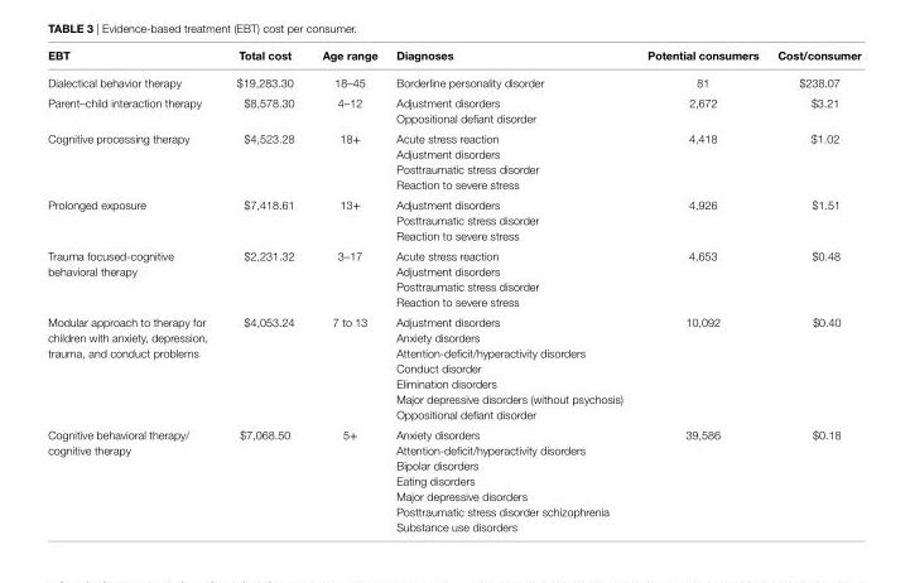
<table><thead><tr><td>eBT</td><td>Total cost</td><td>age range</td><td>Diagnoses</td><td>Potential consumers</td><td>cost/consumer</td></tr></thead><tbody><tr><td>Dialectical behavior therapy</td><td>$19,283.30</td><td>18–45</td><td>Borderline personality disorder</td><td>81</td><td>$238.07</td></tr><tr><td rowspan="2">Parent–child interaction therapy</td><td rowspan="2">$8,578.30</td><td rowspan="2">4–12</td><td>Adjustment disorders</td><td rowspan="2">2,672</td><td rowspan="2">$3.21</td></tr><tr><td>Oppositional defiant disorder</td></tr><tr><td rowspan="4">Cognitive processing therapy</td><td rowspan="4">$4,523.28</td><td rowspan="4">18+</td><td>Acute stress reaction</td><td rowspan="4">4,418</td><td rowspan="4">$1.02</td></tr><tr><td>Adjustment disorders</td></tr><tr><td>Posttraumatic stress disorder</td></tr><tr><td>Reaction to severe stress</td></tr><tr><td rowspan="3">Prolonged exposure</td><td rowspan="3">$7,418.61</td><td rowspan="3">13+</td><td>Adjustment disorders</td><td rowspan="3">4,926</td><td rowspan="3">$1.51</td></tr><tr><td>Posttraumatic stress disorder</td></tr><tr><td>Reaction to severe stress</td></tr><tr><td rowspan="4">Trauma focused-cognitive behavioral therapy</td><td rowspan="4">$2,231.32</td><td rowspan="4">3–17</td><td>Acute stress reaction</td><td rowspan="4">4,653</td><td rowspan="4">$0.48</td></tr><tr><td>Adjustment disorders</td></tr><tr><td>Posttraumatic stress disorder</td></tr><tr><td>Reaction to severe stress</td></tr><tr><td rowspan="7">Modular approach to therapy for children with anxiety, depression, trauma, and conduct problems</td><td rowspan="7">$4,053.24</td><td rowspan="7">7 to 13</td><td>Adjustment disorders</td><td rowspan="7">10,092</td><td rowspan="7">$0.40</td></tr><tr><td>Anxiety disorders</td></tr><tr><td>Attention-deficit/hyperactivity disorders</td></tr><tr><td>Conduct disorder</td></tr><tr><td>Elimination disorders</td></tr><tr><td>Major depressive disorders (without psychosis)</td></tr><tr><td>Oppositional defiant disorder</td></tr><tr><td rowspan="7">Cognitive behavioral therapy/ cognitive therapy</td><td rowspan="7">$7,068.50</td><td rowspan="7">5+</td><td>Anxiety disorders</td><td rowspan="7">39,586</td><td rowspan="7">$0.18</td></tr><tr><td>Attention-deficit/hyperactivity disorders</td></tr><tr><td>Bipolar disorders</td></tr><tr><td>Eating disorders</td></tr><tr><td>Major depressive disorders</td></tr><tr><td>Posttraumatic stress disorder schizophrenia</td></tr><tr><td>Substance use disorders</td></tr></tbody></table>